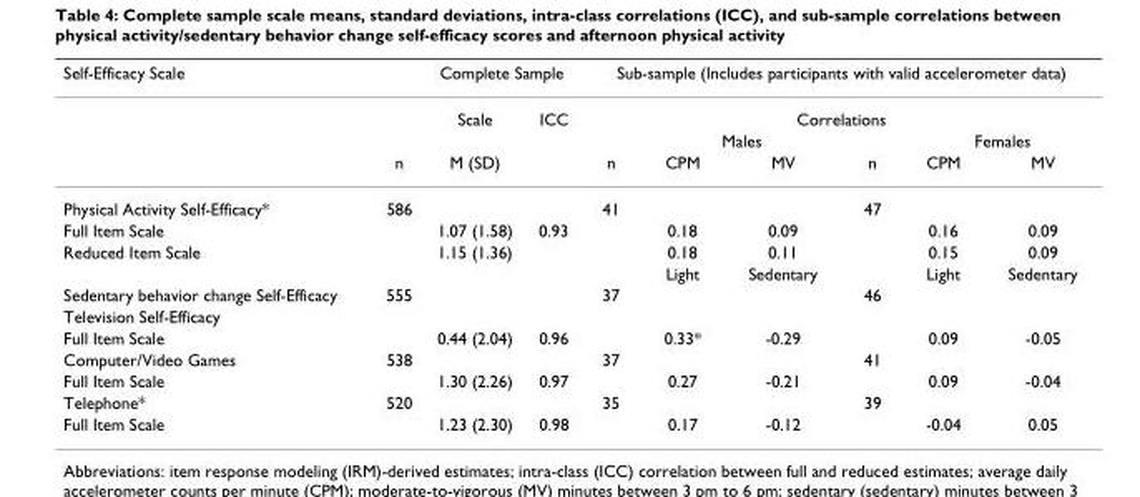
<table><thead><tr><td rowspan="4">Self-Efficacy Scale</td><td rowspan="4">n</td><td colspan="2">Complete Sample</td><td rowspan="2" colspan="6">Sub-sample (Includes participants with valid accelerometer data) Correlations</td></tr><tr><td rowspan="3">Scale M (SD)</td><td rowspan="3">ICC</td></tr><tr><td rowspan="2">n</td><td colspan="2">Males</td><td rowspan="2">n</td><td colspan="2">Females</td></tr><tr><td>CPM</td><td>MV</td><td>CPM</td><td>MV</td></tr></thead><tbody><tr><td>Physical Activity Self-Efficacy*</td><td>586</td><td></td><td></td><td>41</td><td></td><td></td><td>47</td><td></td><td></td></tr><tr><td>Full Item Scale</td><td></td><td>1.07 (1.58)</td><td>0.93</td><td></td><td>0.18</td><td>0.09</td><td></td><td>0.16</td><td>0.09</td></tr><tr><td rowspan="2">Reduced Item Scale</td><td></td><td>1.15 (1.36)</td><td></td><td></td><td>0.18</td><td>0.11</td><td></td><td>0.15</td><td>0.09</td></tr><tr><td></td><td></td><td></td><td></td><td>Light</td><td>Sedentary</td><td></td><td>Light</td><td>Sedentary</td></tr><tr><td>Sedentary behavior change Self-Efficacy</td><td>555</td><td></td><td></td><td>37</td><td></td><td></td><td>46</td><td></td><td></td></tr><tr><td colspan="10">Television Self-Efficacy</td></tr><tr><td>Full Item Scale</td><td></td><td>0.44 (2.04)</td><td>0.96</td><td></td><td>0.33*</td><td>-0.29</td><td></td><td>0.09</td><td>-0.05</td></tr><tr><td>Computer/Video Games</td><td>538</td><td></td><td></td><td>37</td><td></td><td></td><td>41</td><td></td><td></td></tr><tr><td>Full Item Scale</td><td></td><td>1.30 (2.26)</td><td>0.97</td><td></td><td>0.27</td><td>-0.21</td><td></td><td>0.09</td><td>-0.04</td></tr><tr><td>Telephone*</td><td>520</td><td></td><td></td><td>35</td><td></td><td></td><td>39</td><td></td><td></td></tr><tr><td>Full Item Scale</td><td></td><td>1.23 (2.30)</td><td>0.98</td><td></td><td>0.17</td><td>-0.12</td><td></td><td>-0.04</td><td>0.05</td></tr></tbody></table>